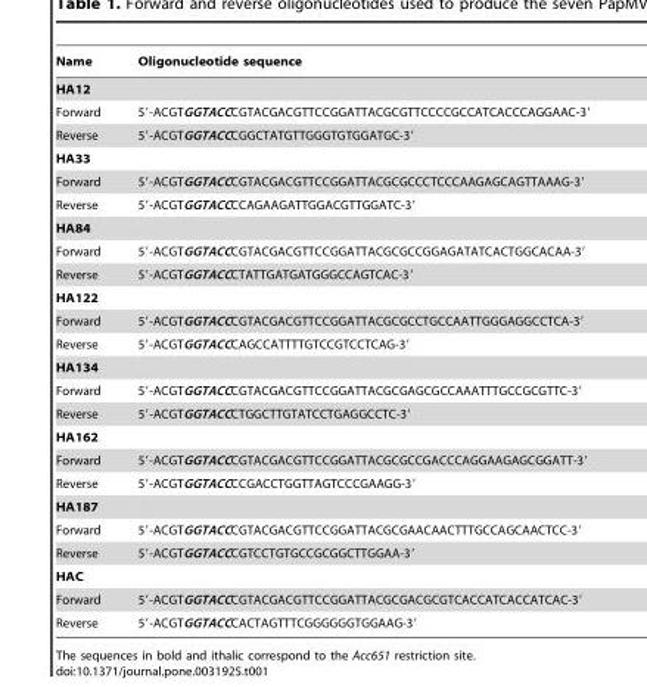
<table><thead><tr><td>Name</td><td>Oligonucleotide sequence</td></tr></thead><tbody><tr><td colspan="2">HA12</td></tr><tr><td>Forward</td><td>5′-ACGTGGTACCCGTACGACGTTCCGGATTACGCGTTCCCCGCCATCACCCAGGAAC-3′</td></tr><tr><td>Reverse</td><td>5′-ACGTGGTACCCGGCTATGTTGGGTGTGGATGC-3′</td></tr><tr><td colspan="2">HA33</td></tr><tr><td>Forward</td><td>5′-ACGTGGTACCCGTACGACGTTCCGGATTACGCGCCCTCCCAAGAGCAGTTAAAG-3′</td></tr><tr><td>Reverse</td><td>5′-ACGTGGTACCCCAGAAGATTGGACGTTGGATC-3′</td></tr><tr><td colspan="2">HA84</td></tr><tr><td>Forward</td><td>5′-ACGTGGTACCCGTACGACGTTCCGGATTACGCGCCGGAGATATCACTGGCACAA-3′</td></tr><tr><td>Reverse</td><td>5′-ACGTGGTACCCTATTGATGATGGGCCAGTCAC-3′</td></tr><tr><td colspan="2">HA122</td></tr><tr><td>Forward</td><td>5′-ACGTGGTACCCGTACGACGTTCCGGATTACGCGCCTGCCAATTGGGAGGCCTCA-3′</td></tr><tr><td>Reverse</td><td>5′-ACGTGGTACCCAGCCATTTTGTCCGTCCTCAG-3′</td></tr><tr><td colspan="2">HA134</td></tr><tr><td>Forward</td><td>5′-ACGTGGTACCCGTACGACGTTCCGGATTACGCGAGCGCCAAATTTGCCGCGTTC-3′</td></tr><tr><td>Reverse</td><td>5′-ACGTGGTACCCTGGCTTGTATCCTGAGGCCTC-3′</td></tr><tr><td colspan="2">HA162</td></tr><tr><td>Forward</td><td>5′-ACGTGGTACCCGTACGACGTTCCGGATTACGCGCCGACCCAGGAAGAGCGGATT-3′</td></tr><tr><td>Reverse</td><td>5′-ACGTGGTACCCCGACCTGGTTAGTCCCGAAGG-3′</td></tr><tr><td colspan="2">HA187</td></tr><tr><td>Forward</td><td>5′-ACGTGGTACCCGTACGACGTTCCGGATTACGCGAACAACTTTGCCAGCAACTCC-3′</td></tr><tr><td>Reverse</td><td>5′-ACGTGGTACCCGTCCTGTGCCGCGGCTTGGAA-3′</td></tr><tr><td colspan="2">HAC</td></tr><tr><td>Forward</td><td>5′-ACGTGGTACCCGTACGACGTTCCGGATTACGCGACGCGTCACCATCACCATCAC-3′</td></tr><tr><td>Reverse</td><td>5′-ACGTGGTACCCACTAGTTTCGGGGGGTGGAAG-3′</td></tr></tbody></table>